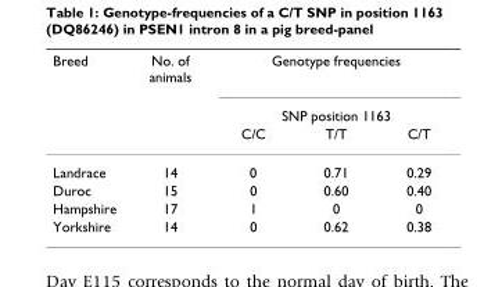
<table><thead><tr><td rowspan="3">Breed</td><td rowspan="3">No. of animals</td><td rowspan="2" colspan="3">Genotype frequencies SNP position 1163</td></tr><tr></tr><tr><td>C/C</td><td>T/T</td><td>C/T</td></tr></thead><tbody><tr><td>Landrace</td><td>14</td><td>0</td><td>0.71</td><td>0.29</td></tr><tr><td>Duroc</td><td>15</td><td>0</td><td>0.60</td><td>0.40</td></tr><tr><td>Hampshire</td><td>17</td><td>1</td><td>0</td><td>0</td></tr><tr><td>Yorkshire</td><td>14</td><td>0</td><td>0.62</td><td>0.38</td></tr></tbody></table>